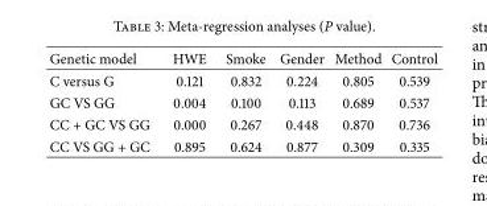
<table><thead><tr><td>Genetic model</td><td>HWE</td><td>Smoke</td><td>Gender</td><td>Method</td><td>Control</td></tr></thead><tbody><tr><td>C versus G</td><td>0.121</td><td>0.832</td><td>0.224</td><td>0.805</td><td>0.539</td></tr><tr><td>GC VS GG</td><td>0.004</td><td>0.100</td><td>0.113</td><td>0.689</td><td>0.537</td></tr><tr><td>CC + GC VS GG</td><td>0.000</td><td>0.267</td><td>0.448</td><td>0.870</td><td>0.736</td></tr><tr><td>CC VS GG + GC</td><td>0.895</td><td>0.624</td><td>0.877</td><td>0.309</td><td>0.335</td></tr></tbody></table>